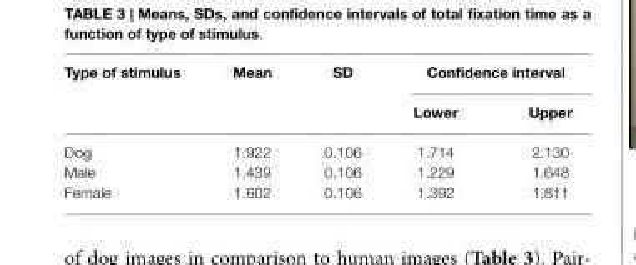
<table><thead><tr><td rowspan="2">Type of stimulus</td><td rowspan="2">Mean</td><td rowspan="2">SD</td><td colspan="2">Confidence interval</td></tr><tr><td>Lower</td><td>Upper</td></tr></thead><tbody><tr><td>Dog</td><td>1.922</td><td>0.106</td><td>1.714</td><td>2.130</td></tr><tr><td>Male</td><td>1.439</td><td>0.106</td><td>1.229</td><td>1.648</td></tr><tr><td>Female</td><td>1.602</td><td>0.106</td><td>1.392</td><td>1.811</td></tr></tbody></table>